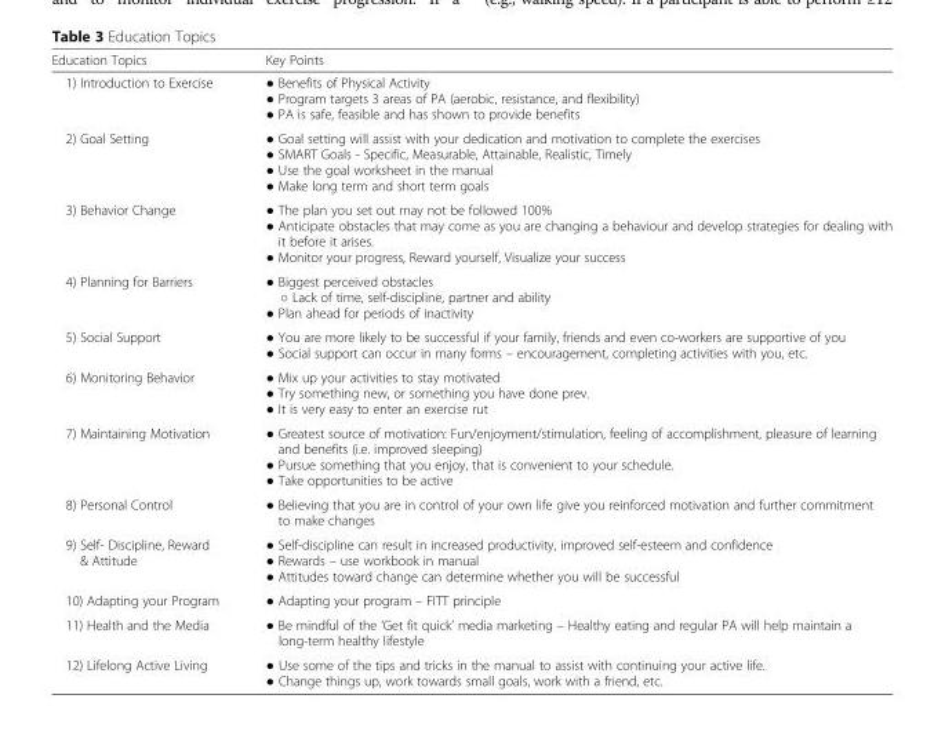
<table><thead><tr><td>Education Topics</td><td>Key Points</td></tr></thead><tbody><tr><td>1) Introduction to Exercise</td><td>● Benefits of Physical Activity ● Program targets 3 areas of PA (aerobic, resistance, and flexibility) ● PA is safe, feasible and has shown to provide benefits</td></tr><tr><td>2) Goal Setting</td><td>● Goal setting will assist with your dedication and motivation to complete the exercises ● SMART Goals - Specific, Measurable, Attainable, Realistic, Timely ● Use the goal worksheet in the manual ● Make long term and short term goals</td></tr><tr><td>3) Behavior Change</td><td>● The plan you set out may not be followed 100% ● Anticipate obstacles that may come as you are changing a behaviour and develop strategies for dealing with it before it arises. ● Monitor your progress, Reward yourself, Visualize your success</td></tr><tr><td>4) Planning for Barriers</td><td>● Biggest perceived obstacles ○ Lack of time, self-discipline, partner and ability ● Plan ahead for periods of inactivity</td></tr><tr><td>5) Social Support</td><td>● You are more likely to be successful if your family, friends and even co-workers are supportive of you ● Social support can occur in many forms – encouragement, completing activities with you, etc.</td></tr><tr><td>6) Monitoring Behavior</td><td>● Mix up your activities to stay motivated ● Try something new, or something you have done prev. ● It is very easy to enter an exercise rut</td></tr><tr><td>7) Maintaining Motivation</td><td>● Greatest source of motivation: Fun/enjoyment/stimulation, feeling of accomplishment, pleasure of learning and benefits (i.e. improved sleeping) ● Pursue something that you enjoy, that is convenient to your schedule. ● Take opportunities to be active</td></tr><tr><td>8) Personal Control</td><td>● Believing that you are in control of your own life give you reinforced motivation and further commitment to make changes</td></tr><tr><td>9) Self- Discipline, Reward &amp; Attitude</td><td>● Self-discipline can result in increased productivity, improved self-esteem and confidence ● Rewards – use workbook in manual ● Attitudes toward change can determine whether you will be successful</td></tr><tr><td>10) Adapting your Program</td><td>● Adapting your program – FITT principle</td></tr><tr><td>11) Health and the Media</td><td>● Be mindful of the ‘Get fit quick’ media marketing – Healthy eating and regular PA will help maintain a long-term healthy lifestyle</td></tr><tr><td>12) Lifelong Active Living</td><td>● Use some of the tips and tricks in the manual to assist with continuing your active life. ● Change things up, work towards small goals, work with a friend, etc.</td></tr></tbody></table>